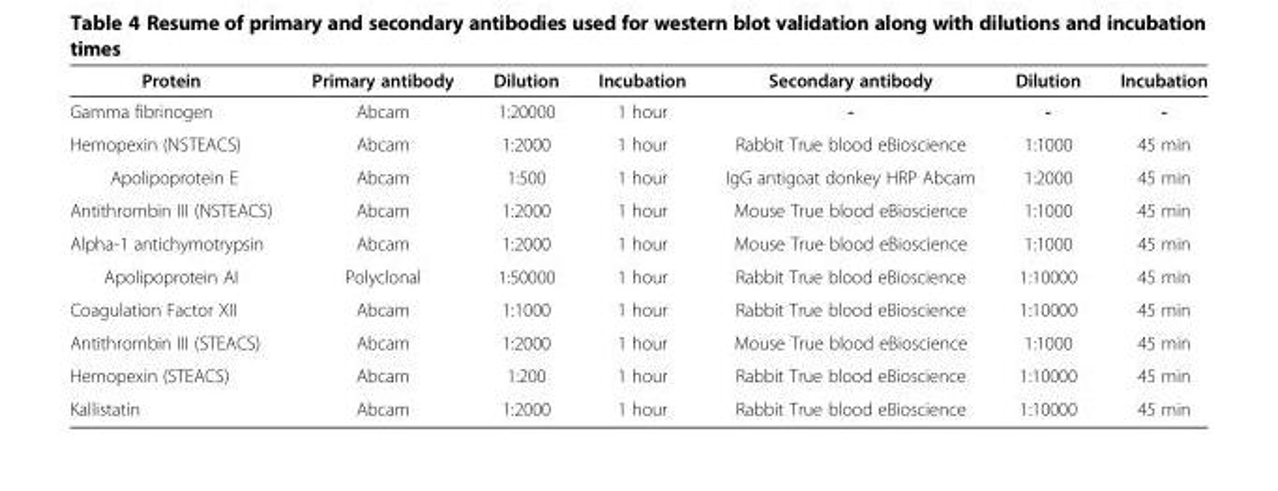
<table><thead><tr><td>Protein</td><td>Primary antibody</td><td>Dilution</td><td>Incubation</td><td>Secondary antibody</td><td>Dilution</td><td>Incubation</td></tr></thead><tbody><tr><td>Gamma fibrinogen</td><td>Abcam</td><td>1:20000</td><td>1 hour</td><td>-</td><td>-</td><td>-</td></tr><tr><td>Hemopexin (NSTEACS)</td><td>Abcam</td><td>1:2000</td><td>1 hour</td><td>Rabbit True blood eBioscience</td><td>1:1000</td><td>45 min</td></tr><tr><td>Apolipoprotein E</td><td>Abcam</td><td>1:500</td><td>1 hour</td><td>IgG antigoat donkey HRP Abcam</td><td>1:2000</td><td>45 min</td></tr><tr><td>Antithrombin III (NSTEACS)</td><td>Abcam</td><td>1:2000</td><td>1 hour</td><td>Mouse True blood eBioscience</td><td>1:1000</td><td>45 min</td></tr><tr><td>Alpha-1 antichymotrypsin</td><td>Abcam</td><td>1:2000</td><td>1 hour</td><td>Mouse True blood eBioscience</td><td>1:1000</td><td>45 min</td></tr><tr><td>Apolipoprotein AI</td><td>Polyclonal</td><td>1:50000</td><td>1 hour</td><td>Rabbit True blood eBioscience</td><td>1:10000</td><td>45 min</td></tr><tr><td>Coagulation Factor XII</td><td>Abcam</td><td>1:1000</td><td>1 hour</td><td>Rabbit True blood eBioscience</td><td>1:10000</td><td>45 min</td></tr><tr><td>Antithrombin III (STEACS)</td><td>Abcam</td><td>1:2000</td><td>1 hour</td><td>Mouse True blood eBioscience</td><td>1:1000</td><td>45 min</td></tr><tr><td>Hemopexin (STEACS)</td><td>Abcam</td><td>1:200</td><td>1 hour</td><td>Rabbit True blood eBioscience</td><td>1:10000</td><td>45 min</td></tr><tr><td>Kallistatin</td><td>Abcam</td><td>1:2000</td><td>1 hour</td><td>Rabbit True blood eBioscience</td><td>1:10000</td><td>45 min</td></tr></tbody></table>